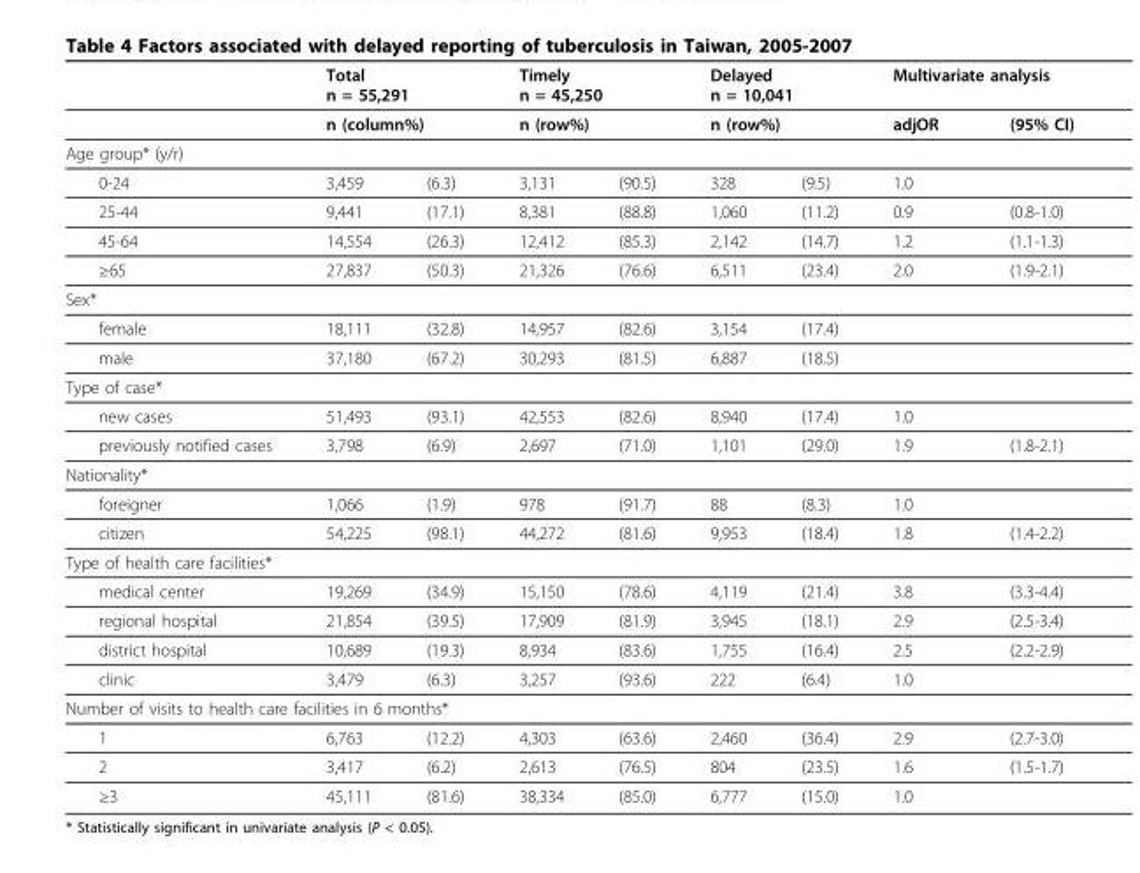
<table><thead><tr><td rowspan="2"></td><td rowspan="2" colspan="2">Total n = 55,291 n (column%)</td><td rowspan="2" colspan="2">Timely n = 45,250 n (row%)</td><td rowspan="2" colspan="2">Delayed n = 10,041 n (row%)</td><td colspan="2">Multivariate analysis</td></tr><tr><td>adjOR</td><td>(95% CI)</td></tr><tr><td colspan="9">Age group* (y/r)</td></tr><tr><td>0-24</td><td>3,459</td><td>(6.3)</td><td>3,131</td><td>(90.5)</td><td>328</td><td>(9.5)</td><td>1.0</td><td></td></tr></thead><tbody><tr><td>25-44</td><td>9,441</td><td>(17.1)</td><td>8,381</td><td>(88.8)</td><td>1,060</td><td>(11.2)</td><td>0.9</td><td>(0.8-1.0)</td></tr><tr><td>45-64</td><td>14,554</td><td>(26.3)</td><td>12,412</td><td>(85.3)</td><td>2,142</td><td>(14.7)</td><td>1.2</td><td>(1.1-1.3)</td></tr><tr><td>≥65</td><td>27,837</td><td>(50.3)</td><td>21,326</td><td>(76.6)</td><td>6,511</td><td>(23.4)</td><td>2.0</td><td>(1.9-2.1)</td></tr><tr><td colspan="9">Sex*</td></tr><tr><td>female</td><td>18,111</td><td>(32.8)</td><td>14,957</td><td>(82.6)</td><td>3,154</td><td>(17.4)</td><td></td><td></td></tr><tr><td>male</td><td>37,180</td><td>(67.2)</td><td>30,293</td><td>(81.5)</td><td>6,887</td><td>(18.5)</td><td></td><td></td></tr><tr><td colspan="9">Type of case*</td></tr><tr><td>new cases</td><td>51,493</td><td>(93.1)</td><td>42,553</td><td>(82.6)</td><td>8,940</td><td>(17.4)</td><td>1.0</td><td></td></tr><tr><td>previously notified cases</td><td>3,798</td><td>(6.9)</td><td>2,697</td><td>(71.0)</td><td>1,101</td><td>(29.0)</td><td>1.9</td><td>(1.8-2.1)</td></tr><tr><td colspan="9">Nationality*</td></tr><tr><td>foreigner</td><td>1,066</td><td>(1.9)</td><td>978</td><td>(91.7)</td><td>88</td><td>(8.3)</td><td>1.0</td><td></td></tr><tr><td>citizen</td><td>54,225</td><td>(98.1)</td><td>44,272</td><td>(81.6)</td><td>9,953</td><td>(18.4)</td><td>1.8</td><td>(1.4-2.2)</td></tr><tr><td colspan="9">Type of health care facilities*</td></tr><tr><td>medical center</td><td>19,269</td><td>(34.9)</td><td>15,150</td><td>(78.6)</td><td>4,119</td><td>(21.4)</td><td>3.8</td><td>(3.3-4.4)</td></tr><tr><td>regional hospital</td><td>21,854</td><td>(39.5)</td><td>17,909</td><td>(81.9)</td><td>3,945</td><td>(18.1)</td><td>2.9</td><td>(2.5-3.4)</td></tr><tr><td>district hospital</td><td>10,689</td><td>(19.3)</td><td>8,934</td><td>(83.6)</td><td>1,755</td><td>(16.4)</td><td>2.5</td><td>(2.2-2.9)</td></tr><tr><td>clinic</td><td>3,479</td><td>(6.3)</td><td>3,257</td><td>(93.6)</td><td>222</td><td>(6.4)</td><td>1.0</td><td></td></tr><tr><td colspan="9">Number of visits to health care facilities in 6 months*</td></tr><tr><td>1</td><td>6,763</td><td>(12.2)</td><td>4,303</td><td>(63.6)</td><td>2,460</td><td>(36.4)</td><td>2.9</td><td>(2.7-3.0)</td></tr><tr><td>2</td><td>3,417</td><td>(6.2)</td><td>2,613</td><td>(76.5)</td><td>804</td><td>(23.5)</td><td>1.6</td><td>(1.5-1.7)</td></tr><tr><td>≥3</td><td>45,111</td><td>(81.6)</td><td>38,334</td><td>(85.0)</td><td>6,777</td><td>(15.0)</td><td>1.0</td><td></td></tr></tbody></table>